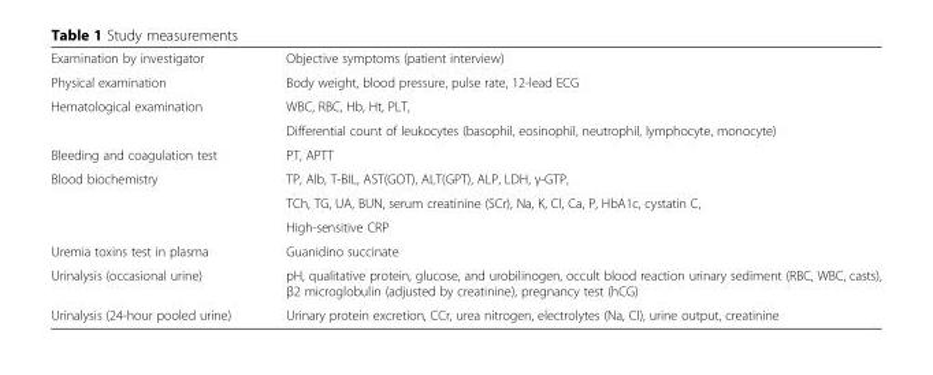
<table><tbody><tr><td>Examination by investigator</td><td>Objective symptoms (patient interview)</td></tr><tr><td>Physical examination</td><td>Body weight, blood pressure, pulse rate, 12-lead ECG</td></tr><tr><td rowspan="2">Hematological examination</td><td>WBC, RBC, Hb, Ht, PLT,</td></tr><tr><td>Differential count of leukocytes (basophil, eosinophil, neutrophil, lymphocyte, monocyte)</td></tr><tr><td>Bleeding and coagulation test</td><td>PT, APTT</td></tr><tr><td rowspan="3">Blood biochemistry</td><td>TP, Alb, T-BIL, AST(GOT), ALT(GPT), ALP, LDH, γ-GTP,</td></tr><tr><td>TCh, TG, UA, BUN, serum creatinine (SCr), Na, K, Cl, Ca, P, HbA1c, cystatin C,</td></tr><tr><td>High-sensitive CRP</td></tr><tr><td>Uremia toxins test in plasma</td><td>Guanidino succinate</td></tr><tr><td>Urinalysis (occasional urine)</td><td>pH, qualitative protein, glucose, and urobilinogen, occult blood reaction urinary sediment (RBC, WBC, casts), β2 microglobulin (adjusted by creatinine), pregnancy test (hCG)</td></tr><tr><td>Urinalysis (24-hour pooled urine)</td><td>Urinary protein excretion, CCr, urea nitrogen, electrolytes (Na, Cl), urine output, creatinine</td></tr></tbody></table>